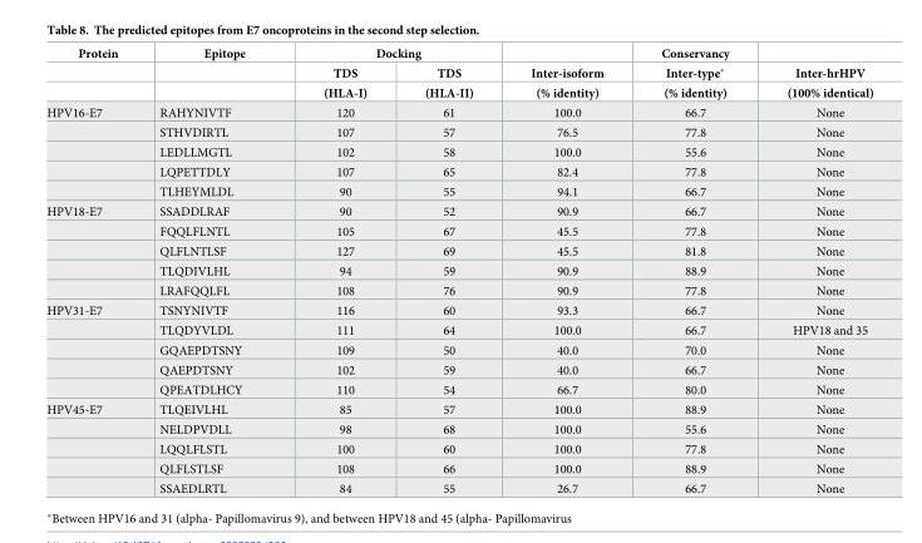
<table><thead><tr><td rowspan="3">Protein</td><td rowspan="3">Epitope</td><td colspan="2">Docking</td><td rowspan="3">Inter-isoform (% identity)</td><td rowspan="3">Conservancy Inter-type* (% identity)</td><td rowspan="3">Inter-hrHPV (100% identical)</td></tr><tr><td rowspan="2">TDS (HLA-I)</td><td rowspan="2">TDS (HLA-II)</td></tr><tr></tr></thead><tbody><tr><td rowspan="5">HPV16-E7</td><td>RAHYNIVTF</td><td>120</td><td>61</td><td>100.0</td><td>66.7</td><td>None</td></tr><tr><td>STHVDIRTL</td><td>107</td><td>57</td><td>76.5</td><td>77.8</td><td>None</td></tr><tr><td>LEDLLMGTL</td><td>102</td><td>58</td><td>100.0</td><td>55.6</td><td>None</td></tr><tr><td>LQPETTDLY</td><td>107</td><td>65</td><td>82.4</td><td>77.8</td><td>None</td></tr><tr><td>TLHEYMLDL</td><td>90</td><td>55</td><td>94.1</td><td>66.7</td><td>None</td></tr><tr><td rowspan="5">HPV18-E7</td><td>SSADDLRAF</td><td>90</td><td>52</td><td>90.9</td><td>66.7</td><td>None</td></tr><tr><td>FQQLFLNTL</td><td>105</td><td>67</td><td>45.5</td><td>77.8</td><td>None</td></tr><tr><td>QLFLNTLSF</td><td>127</td><td>69</td><td>45.5</td><td>81.8</td><td>None</td></tr><tr><td>TLQDIVLHL</td><td>94</td><td>59</td><td>90.9</td><td>88.9</td><td>None</td></tr><tr><td>LRAFQQLFL</td><td>108</td><td>76</td><td>90.9</td><td>77.8</td><td>None</td></tr><tr><td rowspan="5">HPV31-E7</td><td>TSNYNIVTF</td><td>116</td><td>60</td><td>93.3</td><td>66.7</td><td>None</td></tr><tr><td>TLQDYVLDL</td><td>111</td><td>64</td><td>100.0</td><td>66.7</td><td>HPV18 and 35</td></tr><tr><td>GQAEPDTSNY</td><td>109</td><td>50</td><td>40.0</td><td>70.0</td><td>None</td></tr><tr><td>QAEPDTSNY</td><td>102</td><td>59</td><td>40.0</td><td>66.7</td><td>None</td></tr><tr><td>QPEATDLHCY</td><td>110</td><td>54</td><td>66.7</td><td>80.0</td><td>None</td></tr><tr><td rowspan="5">HPV45-E7</td><td>TLQEIVLHL</td><td>85</td><td>57</td><td>100.0</td><td>88.9</td><td>None</td></tr><tr><td>NELDPVDLL</td><td>98</td><td>68</td><td>100.0</td><td>55.6</td><td>None</td></tr><tr><td>LQQLFLSTL</td><td>100</td><td>60</td><td>100.0</td><td>77.8</td><td>None</td></tr><tr><td>QLFLSTLSF</td><td>108</td><td>66</td><td>100.0</td><td>88.9</td><td>None</td></tr><tr><td>SSAEDLRTL</td><td>84</td><td>55</td><td>26.7</td><td>66.7</td><td>None</td></tr></tbody></table>